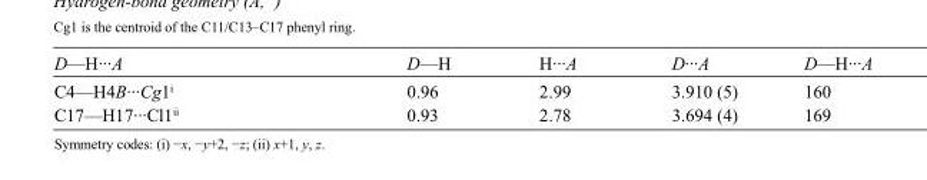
<table><tbody><tr><td>D—H···A</td><td>D—H</td><td>H···A</td><td>D···A</td><td>D—H···A</td></tr><tr><td>C4—H4B···Cg1<sup>i</sup></td><td>0.96</td><td>2.99</td><td>3.910 (5)</td><td>160</td></tr><tr><td>C17—H17···Cl1<sup>ii</sup></td><td>0.93</td><td>2.78</td><td>3.694 (4)</td><td>169</td></tr></tbody></table>